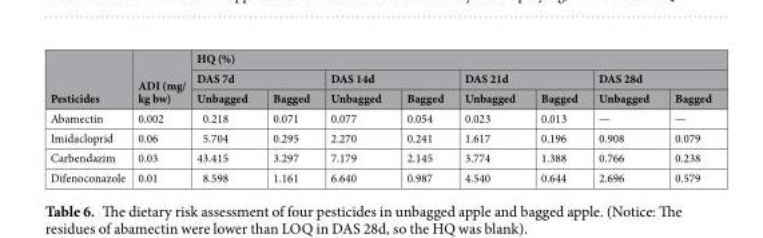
<table><thead><tr><td rowspan="3">Pesticides</td><td rowspan="3">ADI (mg/ kg bw)</td><td colspan="8">HQ (%)</td></tr><tr><td colspan="2">DAS 7d</td><td colspan="2">DAS 14d</td><td colspan="2">DAS 21d</td><td colspan="2">DAS 28d</td></tr><tr><td>Unbagged</td><td>Bagged</td><td>Unbagged</td><td>Bagged</td><td>Unbagged</td><td>Bagged</td><td>Unbagged</td><td>Bagged</td></tr></thead><tbody><tr><td>Abamectin</td><td>0.002</td><td>0.218</td><td>0.071</td><td>0.077</td><td>0.054</td><td>0.023</td><td>0.013</td><td>—</td><td>—</td></tr><tr><td>Imidacloprid</td><td>0.06</td><td>5.704</td><td>0.295</td><td>2.270</td><td>0.241</td><td>1.617</td><td>0.196</td><td>0.908</td><td>0.079</td></tr><tr><td>Carbendazim</td><td>0.03</td><td>43.415</td><td>3.297</td><td>7.179</td><td>2.145</td><td>3.774</td><td>1.388</td><td>0.766</td><td>0.238</td></tr><tr><td>Difenoconazole</td><td>0.01</td><td>8.598</td><td>1.161</td><td>6.640</td><td>0.987</td><td>4.540</td><td>0.644</td><td>2.696</td><td>0.579</td></tr></tbody></table>